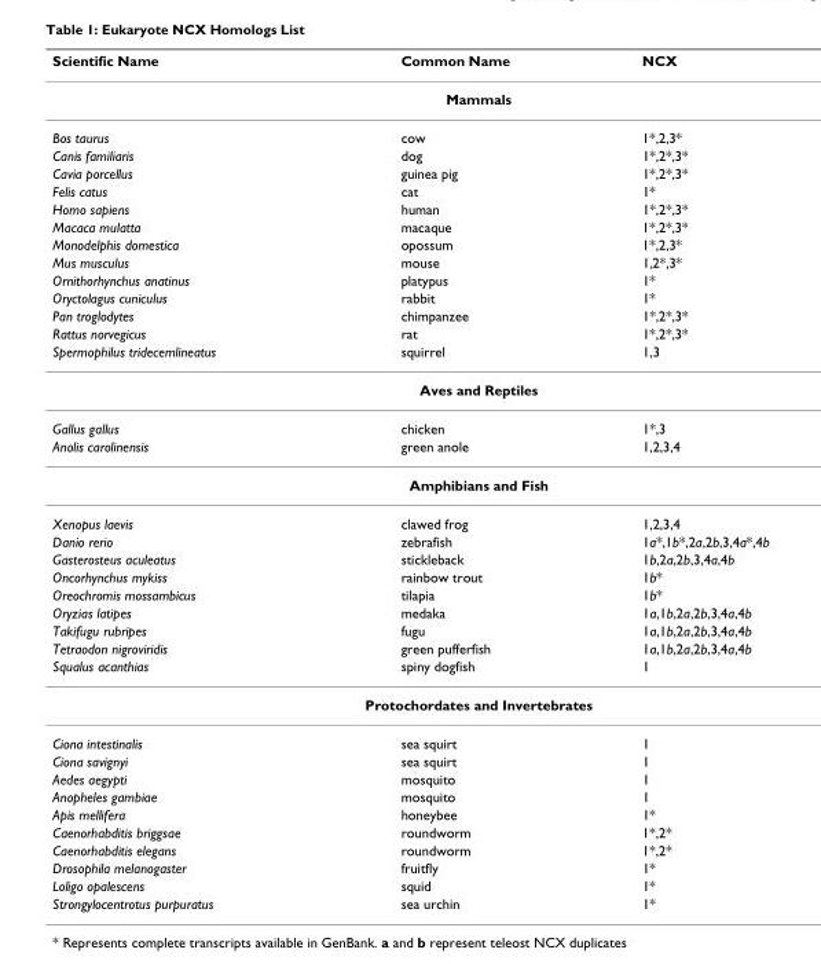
<table><thead><tr><td>Scientific Name</td><td>Common Name</td><td>NCX</td></tr></thead><tbody><tr><td colspan="3">Mammals</td></tr><tr><td>Bos taurus</td><td>cow</td><td>1*,2,3*</td></tr><tr><td>Canis familiaris</td><td>dog</td><td>1*,2*,3*</td></tr><tr><td>Cavia porcellus</td><td>guinea pig</td><td>1*,2*,3*</td></tr><tr><td>Felis catus</td><td>cat</td><td>1*</td></tr><tr><td>Homo sapiens</td><td>human</td><td>1*,2*,3*</td></tr><tr><td>Macaca mulatta</td><td>macaque</td><td>1*,2*,3*</td></tr><tr><td>Monodelphis domestica</td><td>opossum</td><td>1*,2,3*</td></tr><tr><td>Mus musculus</td><td>mouse</td><td>1,2*,3*</td></tr><tr><td>Ornithorhynchus anatinus</td><td>platypus</td><td>1*</td></tr><tr><td>Oryctolagus cuniculus</td><td>rabbit</td><td>1*</td></tr><tr><td>Pan troglodytes</td><td>chimpanzee</td><td>1*,2*,3*</td></tr><tr><td>Rattus norvegicus</td><td>rat</td><td>1*,2*,3*</td></tr><tr><td>Spermophilus tridecemlineatus</td><td>squirrel</td><td>1,3</td></tr><tr><td colspan="3">Aves and Reptiles</td></tr><tr><td>Gallus gallus</td><td>chicken</td><td>1*,3</td></tr><tr><td>Anolis carolinensis</td><td>green anole</td><td>1,2,3,4</td></tr><tr><td colspan="3">Amphibians and Fish</td></tr><tr><td>Xenopus laevis</td><td>clawed frog</td><td>1,2,3,4</td></tr><tr><td>Danio rerio</td><td>zebrafish</td><td>1a*,1b*,2a,2b,3,4a*,4b</td></tr><tr><td>Gasterosteus aculeatus</td><td>stickleback</td><td>1b,2a,2b,3,4a,4b</td></tr><tr><td>Oncorhynchus mykiss</td><td>rainbow trout</td><td>1b*</td></tr><tr><td>Oreochromis mossambicus</td><td>tilapia</td><td>1b*</td></tr><tr><td>Oryzias latipes</td><td>medaka</td><td>1a,1b,2a,2b,3,4a,4b</td></tr><tr><td>Takifugu rubripes</td><td>fugu</td><td>1a,1b,2a,2b,3,4a,4b</td></tr><tr><td>Tetraodon nigroviridis</td><td>green pufferfish</td><td>1a,1b,2a,2b,3,4a,4b</td></tr><tr><td>Squalus acanthias</td><td>spiny dogfish</td><td>1</td></tr><tr><td colspan="3">Protochordates and Invertebrates</td></tr><tr><td>Ciona intestinalis</td><td>sea squirt</td><td>1</td></tr><tr><td>Ciona savignyi</td><td>sea squirt</td><td>1</td></tr><tr><td>Aedes aegypti</td><td>mosquito</td><td>1</td></tr><tr><td>Anopheles gambiae</td><td>mosquito</td><td>1</td></tr><tr><td>Apis mellifera</td><td>honeybee</td><td>1*</td></tr><tr><td>Caenorhabditis briggsae</td><td>roundworm</td><td>1*,2*</td></tr><tr><td>Caenorhabditis elegans</td><td>roundworm</td><td>1*,2*</td></tr><tr><td>Drosophila melanogaster</td><td>fruitfly</td><td>1*</td></tr><tr><td>Loligo opalescens</td><td>squid</td><td>1*</td></tr><tr><td>Strongylocentrotus purpuratus</td><td>sea urchin</td><td>1*</td></tr></tbody></table>